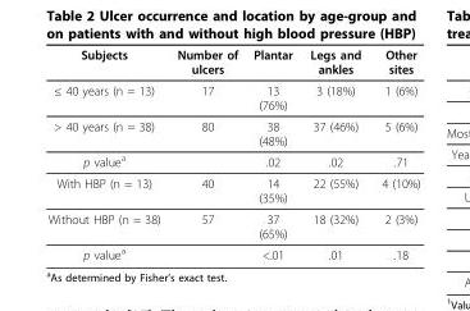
<table><thead><tr><td>Subjects</td><td>Number of ulcers</td><td>Plantar</td><td>Legs and ankles</td><td>Other sites</td></tr></thead><tbody><tr><td>≤ 40 years (n = 13)</td><td>17</td><td>13 (76%)</td><td>3 (18%)</td><td>1 (6%)</td></tr><tr><td>&gt; 40 years (n = 38)</td><td>80</td><td>38 (48%)</td><td>37 (46%)</td><td>5 (6%)</td></tr><tr><td>p value<sup>a</sup></td><td></td><td>.02</td><td>.02</td><td>.71</td></tr><tr><td>With HBP (n = 13)</td><td>40</td><td>14 (35%)</td><td>22 (55%)</td><td>4 (10%)</td></tr><tr><td>Without HBP (n = 38)</td><td>57</td><td>37 (65%)</td><td>18 (32%)</td><td>2 (3%)</td></tr><tr><td>p value<sup>a</sup></td><td></td><td>&lt;.01</td><td>.01</td><td>.18</td></tr></tbody></table>